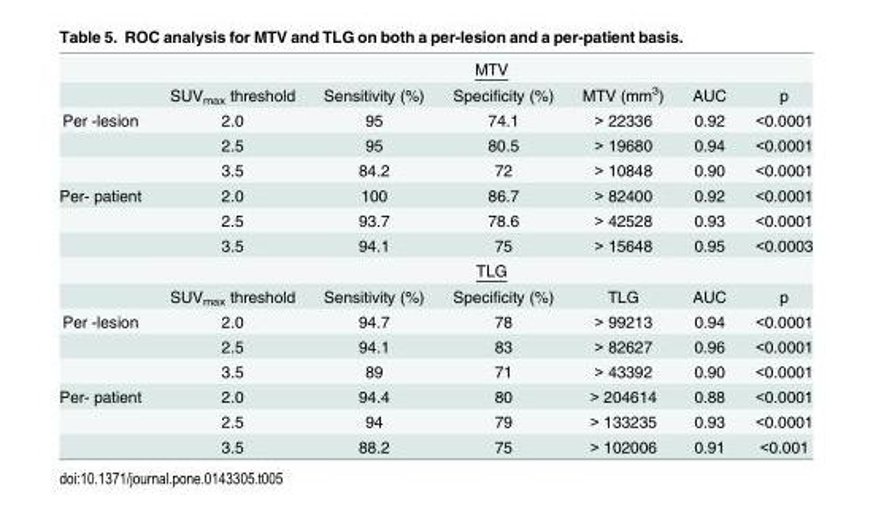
<table><thead><tr><td rowspan="2"></td><td colspan="6">MTV</td></tr><tr><td>SUV<sub>max</sub> threshold</td><td>Sensitivity (%)</td><td>Specificity (%)</td><td>MTV (mm<sup>3</sup>)</td><td>AUC</td><td>p</td></tr></thead><tbody><tr><td rowspan="3">Per -lesion</td><td>2.0</td><td>95</td><td>74.1</td><td>&gt; 22336</td><td>0.92</td><td>&lt;0.0001</td></tr><tr><td>2.5</td><td>95</td><td>80.5</td><td>&gt; 19680</td><td>0.94</td><td>&lt;0.0001</td></tr><tr><td>3.5</td><td>84.2</td><td>72</td><td>&gt; 10848</td><td>0.90</td><td>&lt;0.0001</td></tr><tr><td rowspan="5">Per- patient</td><td>2.0</td><td>100</td><td>86.7</td><td>&gt; 82400</td><td>0.92</td><td>&lt;0.0001</td></tr><tr><td>2.5</td><td>93.7</td><td>78.6</td><td>&gt; 42528</td><td>0.93</td><td>&lt;0.0001</td></tr><tr><td>3.5</td><td>94.1</td><td>75</td><td>&gt; 15648</td><td>0.95</td><td>&lt;0.0003</td></tr><tr><td colspan="6">TLG</td></tr><tr><td>SUV<sub>max</sub> threshold</td><td>Sensitivity (%)</td><td>Specificity (%)</td><td>TLG</td><td>AUC</td><td>p</td></tr><tr><td rowspan="3">Per -lesion</td><td>2.0</td><td>94.7</td><td>78</td><td>&gt; 99213</td><td>0.94</td><td>&lt;0.0001</td></tr><tr><td>2.5</td><td>94.1</td><td>83</td><td>&gt; 82627</td><td>0.96</td><td>&lt;0.0001</td></tr><tr><td>3.5</td><td>89</td><td>71</td><td>&gt; 43392</td><td>0.90</td><td>&lt;0.0001</td></tr><tr><td rowspan="3">Per- patient</td><td>2.0</td><td>94.4</td><td>80</td><td>&gt; 204614</td><td>0.88</td><td>&lt;0.0001</td></tr><tr><td>2.5</td><td>94</td><td>79</td><td>&gt; 133235</td><td>0.93</td><td>&lt;0.0001</td></tr><tr><td>3.5</td><td>88.2</td><td>75</td><td>&gt; 102006</td><td>0.91</td><td>&lt;0.001</td></tr></tbody></table>